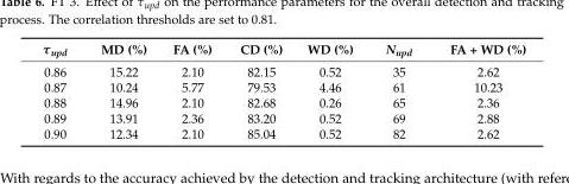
<table><thead><tr><td>τ<sub>upd</sub></td><td>MD (%)</td><td>FA (%)</td><td>CD (%)</td><td>WD (%)</td><td>N<sub>upd</sub></td><td>FA + WD (%)</td></tr></thead><tbody><tr><td>0.86</td><td>15.22</td><td>2.10</td><td>82.15</td><td>0.52</td><td>35</td><td>2.62</td></tr><tr><td>0.87</td><td>10.24</td><td>5.77</td><td>79.53</td><td>4.46</td><td>61</td><td>10.23</td></tr><tr><td>0.88</td><td>14.96</td><td>2.10</td><td>82.68</td><td>0.26</td><td>65</td><td>2.36</td></tr><tr><td>0.89</td><td>13.91</td><td>2.36</td><td>83.20</td><td>0.52</td><td>69</td><td>2.88</td></tr><tr><td>0.90</td><td>12.34</td><td>2.10</td><td>85.04</td><td>0.52</td><td>82</td><td>2.62</td></tr></tbody></table>